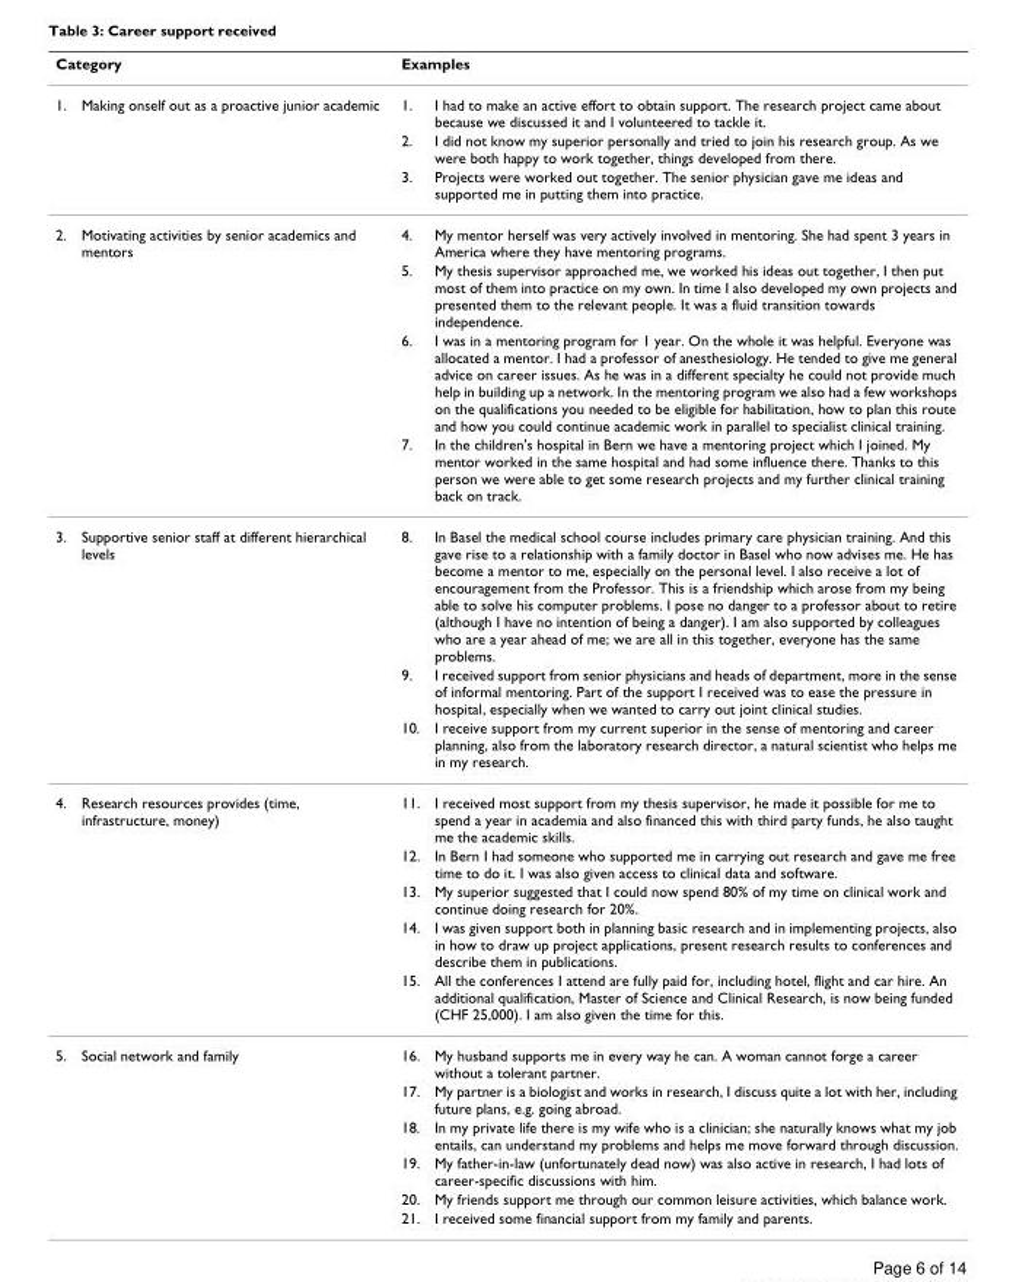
<table><thead><tr><td colspan="2">Category</td><td colspan="2">Examples</td></tr><tr><td>1.</td><td>Making onself out as a proactive junior academic</td><td>1.</td><td>I had to make an active effort to obtain support. The research project came about because we discussed it and I volunteered to tackle it.</td></tr></thead><tbody><tr><td></td><td></td><td>2.</td><td>I did not know my superior personally and tried to join his research group. As we were both happy to work together, things developed from there.</td></tr><tr><td></td><td></td><td>3.</td><td>Projects were worked out together. The senior physician gave me ideas and supported me in putting them into practice.</td></tr><tr><td rowspan="4">2.</td><td>Motivating activities by senior academics and mentors</td><td>4.</td><td>My mentor herself was very actively involved in mentoring. She had spent 3 years in America where they have mentoring programs.</td></tr><tr><td></td><td>5.</td><td>My thesis supervisor approached me, we worked his ideas out together, I then put most of them into practice on my own. In time I also developed my own projects and presented them to the relevant people. It was a fluid transition towards independence.</td></tr><tr><td></td><td>6.</td><td>I was in a mentoring program for 1 year. On the whole it was helpful. Everyone was allocated a mentor. I had a professor of anesthesiology. He tended to give me general advice on career issues. As he was in a different specialty he could not provide much help in building up a network. In the mentoring program we also had a few workshops on the qualifications you needed to be eligible for habilitation, how to plan this route and how you could continue academic work in parallel to specialist clinical training.</td></tr><tr><td></td><td>7.</td><td>In the children&#x27;s hospital in Bern we have a mentoring project which I joined. My mentor worked in the same hospital and had some influence there. Thanks to this person we were able to get some research projects and my further clinical training back on track.</td></tr><tr><td rowspan="3">3.</td><td>Supportive senior staff at different hierarchical levels</td><td>8.</td><td>In Basel the medical school course includes primary care physician training. And this gave rise to a relationship with a family doctor in Basel who now advises me. He has become a mentor to me, especially on the personal level. I also receive a lot of encouragement from the Professor. This is a friendship which arose from my being able to solve his computer problems. I pose no danger to a professor about to retire (although I have no intention of being a danger). I am also supported by colleagues who are a year ahead of me; we are all in this together, everyone has the same problems.</td></tr><tr><td></td><td>9.</td><td>I received support from senior physicians and heads of department, more in the sense of informal mentoring. Part of the support I received was to ease the pressure in hospital, especially when we wanted to carry out joint clinical studies.</td></tr><tr><td></td><td>10.</td><td>I receive support from my current superior in the sense of mentoring and career planning, also from the laboratory research director, a natural scientist who helps me in my research.</td></tr><tr><td rowspan="5">4.</td><td>Research resources provides (time, infrastructure, money)</td><td>11.</td><td>I received most support from my thesis supervisor, he made it possible for me to spend a year in academia and also financed this with third party funds, he also taught me the academic skills.</td></tr><tr><td></td><td>12.</td><td>In Bern I had someone who supported me in carrying out research and gave me free time to do it. I was also given access to clinical data and software.</td></tr><tr><td></td><td>13.</td><td>My superior suggested that I could now spend 80% of my time on clinical work and continue doing research for 20%.</td></tr><tr><td></td><td>14.</td><td>I was given support both in planning basic research and in implementing projects, also in how to draw up project applications, present research results to conferences and describe them in publications.</td></tr><tr><td></td><td>15.</td><td>All the conferences I attend are fully paid for, including hotel, flight and car hire. An additional qualification, Master of Science and Clinical Research, is now being funded (CHF 25,000). I am also given the time for this.</td></tr><tr><td rowspan="6">5.</td><td>Social network and family</td><td>16.</td><td>My husband supports me in every way he can. A woman cannot forge a career without a tolerant partner.</td></tr><tr><td></td><td>17.</td><td>My partner is a biologist and works in research, I discuss quite a lot with her, including future plans, e.g. going abroad.</td></tr><tr><td></td><td>18.</td><td>In my private life there is my wife who is a clinician; she naturally knows what my job entails, can understand my problems and helps me move forward through discussion.</td></tr><tr><td></td><td>19.</td><td>My father-in-law (unfortunately dead now) was also active in research, I had lots of career-specific discussions with him.</td></tr><tr><td></td><td>20.</td><td>My friends support me through our common leisure activities, which balance work.</td></tr><tr><td></td><td>21.</td><td>I received some financial support from my family and parents.</td></tr></tbody></table>